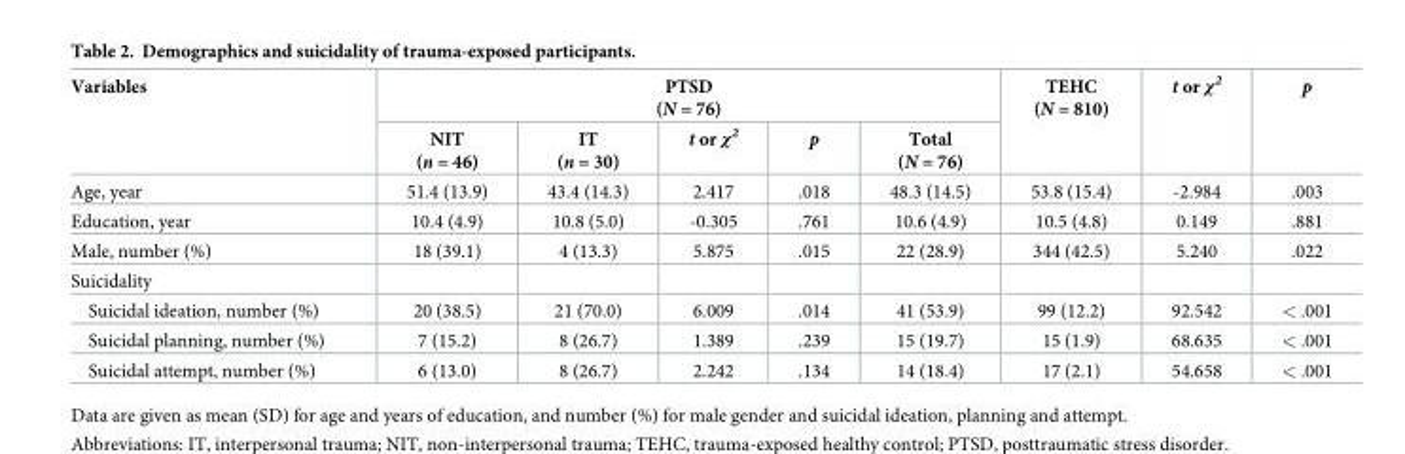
<table><thead><tr><td rowspan="2">Variables</td><td colspan="5">PTSD (N = 76)</td><td rowspan="2">TEHC (N = 810)</td><td rowspan="2">t or χ<sup>2</sup></td><td rowspan="2">p</td></tr><tr><td>NIT (n = 46)</td><td>IT (n = 30)</td><td>t or χ<sup>2</sup></td><td>p</td><td>Total (N = 76)</td></tr></thead><tbody><tr><td>Age, year</td><td>51.4 (13.9)</td><td>43.4 (14.3)</td><td>2.417</td><td>.018</td><td>48.3 (14.5)</td><td>53.8 (15.4)</td><td>-2.984</td><td>.003</td></tr><tr><td>Education, year</td><td>10.4 (4.9)</td><td>10.8 (5.0)</td><td>-0.305</td><td>.761</td><td>10.6 (4.9)</td><td>10.5 (4.8)</td><td>0.149</td><td>.881</td></tr><tr><td>Male, number (%)</td><td>18 (39.1)</td><td>4 (13.3)</td><td>5.875</td><td>.015</td><td>22 (28.9)</td><td>344 (42.5)</td><td>5.240</td><td>.022</td></tr><tr><td colspan="9">Suicidality</td></tr><tr><td>Suicidal ideation, number (%)</td><td>20 (38.5)</td><td>21 (70.0)</td><td>6.009</td><td>.014</td><td>41 (53.9)</td><td>99 (12.2)</td><td>92.542</td><td>&lt; .001</td></tr><tr><td>Suicidal planning, number (%)</td><td>7 (15.2)</td><td>8 (26.7)</td><td>1.389</td><td>.239</td><td>15 (19.7)</td><td>15 (1.9)</td><td>68.635</td><td>&lt; .001</td></tr><tr><td>Suicidal attempt, number (%)</td><td>6 (13.0)</td><td>8 (26.7)</td><td>2.242</td><td>.134</td><td>14 (18.4)</td><td>17 (2.1)</td><td>54.658</td><td>&lt; .001</td></tr></tbody></table>